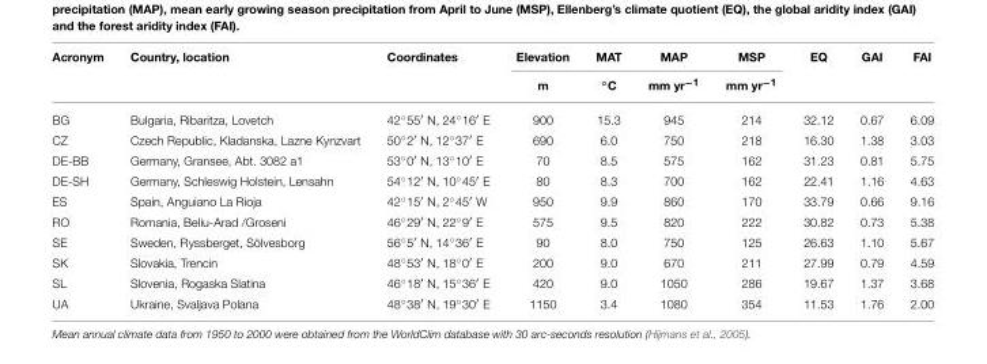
<table><thead><tr><td rowspan="2">Acronym</td><td rowspan="2">Country, location</td><td rowspan="2">Coordinates</td><td rowspan="2">Elevation m</td><td rowspan="2">MAT ◦C</td><td rowspan="2">MAP mm yr<sup>−1</sup></td><td rowspan="2">MSP mm yr<sup>−1</sup></td><td rowspan="2">EQ</td><td rowspan="2">GAI</td><td rowspan="2">FAI</td></tr><tr></tr></thead><tbody><tr><td>BG</td><td>Bulgaria, Ribaritza, Lovetch</td><td>42◦55′ N, 24◦16′ E</td><td>900</td><td>15.3</td><td>945</td><td>214</td><td>32.12</td><td>0.67</td><td>6.09</td></tr><tr><td>CZ</td><td>Czech Republic, Kladanska, Lazne Kynzvart</td><td>50◦2′ N, 12◦37′ E</td><td>690</td><td>6.0</td><td>750</td><td>218</td><td>16.30</td><td>1.38</td><td>3.03</td></tr><tr><td>DE-BB</td><td>Germany, Gransee, Abt. 3082 a1</td><td>53◦0′ N, 13◦10′ E</td><td>70</td><td>8.5</td><td>575</td><td>162</td><td>31.23</td><td>0.81</td><td>5.75</td></tr><tr><td>DE-SH</td><td>Germany, Schleswig Holstein, Lensahn</td><td>54◦12′ N, 10◦45′ E</td><td>80</td><td>8.3</td><td>700</td><td>162</td><td>22.41</td><td>1.16</td><td>4.63</td></tr><tr><td>ES</td><td>Spain, Anguiano La Rioja</td><td>42◦15′ N, 2◦45′ W</td><td>950</td><td>9.9</td><td>860</td><td>170</td><td>33.79</td><td>0.66</td><td>9.16</td></tr><tr><td>RO</td><td>Romania, Beliu-Arad /Groseni</td><td>46◦29′ N, 22◦9′ E</td><td>575</td><td>9.5</td><td>820</td><td>222</td><td>30.82</td><td>0.73</td><td>5.38</td></tr><tr><td>SE</td><td>Sweden, Ryssberget, Sölvesborg</td><td>56◦5′ N, 14◦36′ E</td><td>90</td><td>8.0</td><td>750</td><td>125</td><td>26.63</td><td>1.10</td><td>5.67</td></tr><tr><td>SK</td><td>Slovakia, Trencin</td><td>48◦53′ N, 18◦0′ E</td><td>200</td><td>9.0</td><td>670</td><td>211</td><td>27.99</td><td>0.79</td><td>4.59</td></tr><tr><td>SL</td><td>Slovenia, Rogaska Slatina</td><td>46◦18′ N, 15◦36′ E</td><td>420</td><td>9.0</td><td>1050</td><td>286</td><td>19.67</td><td>1.37</td><td>3.68</td></tr><tr><td>UA</td><td>Ukraine, Svaljava Polana</td><td>48◦38′ N, 19◦30′ E</td><td>1150</td><td>3.4</td><td>1080</td><td>354</td><td>11.53</td><td>1.76</td><td>2.00</td></tr></tbody></table>